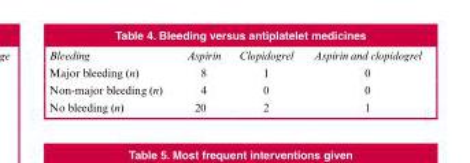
<table><thead><tr><td>Bleeding</td><td>Aspirin</td><td>Clopidogrel</td><td>Aspirin and clopidogrel</td></tr></thead><tbody><tr><td>Major bleeding (n)</td><td>8</td><td>1</td><td>0</td></tr><tr><td>Non-major bleeding (n)</td><td>4</td><td>0</td><td>0</td></tr><tr><td>No bleeding (n)</td><td>20</td><td>2</td><td>1</td></tr></tbody></table>